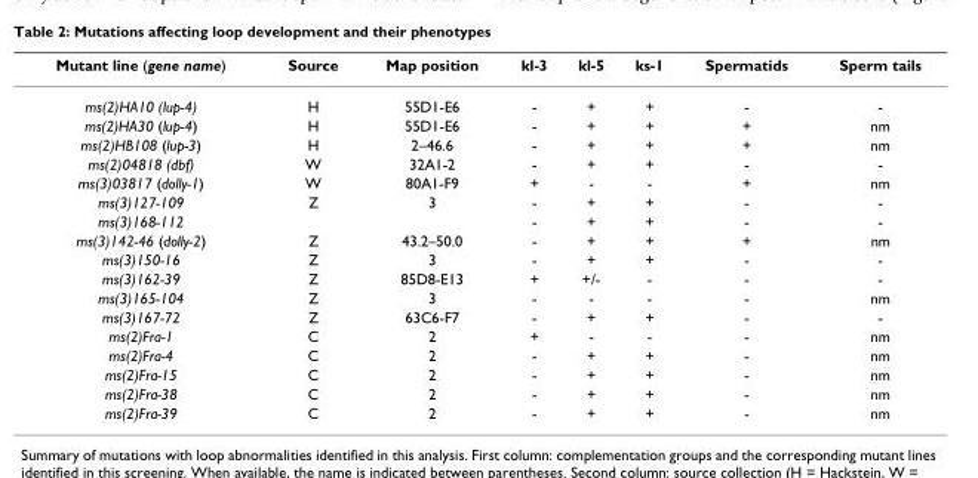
<table><thead><tr><td>Mutant line (gene name)</td><td>Source</td><td>Map position</td><td>kl-3</td><td>kl-5</td><td>ks-1</td><td>Spermatids</td><td>Sperm tails</td></tr></thead><tbody><tr><td>ms(2)HA10 (lup-4)</td><td>H</td><td>55D1-E6</td><td>-</td><td>+</td><td>+</td><td>-</td><td>-</td></tr><tr><td>ms(2)HA30 (lup-4)</td><td>H</td><td>55D1-E6</td><td>-</td><td>+</td><td>+</td><td>+</td><td>nm</td></tr><tr><td>ms(2)HB108 (lup-3)</td><td>H</td><td>2–46.6</td><td>-</td><td>+</td><td>+</td><td>+</td><td>nm</td></tr><tr><td>ms(2)04818 (dbf)</td><td>W</td><td>32A1-2</td><td>-</td><td>+</td><td>+</td><td>-</td><td>-</td></tr><tr><td>ms(3)03817 (dolly-1)</td><td>W</td><td>80A1-F9</td><td>+</td><td>-</td><td>-</td><td>+</td><td>nm</td></tr><tr><td>ms(3)127-109</td><td>Z</td><td>3</td><td>-</td><td>+</td><td>+</td><td>-</td><td>-</td></tr><tr><td>ms(3)168-112</td><td></td><td></td><td>-</td><td>+</td><td>+</td><td>-</td><td>-</td></tr><tr><td>ms(3)142-46 (dolly-2)</td><td>Z</td><td>43.2–50.0</td><td>-</td><td>+</td><td>+</td><td>+</td><td>nm</td></tr><tr><td>ms(3)150-16</td><td>Z</td><td>3</td><td>-</td><td>+</td><td>+</td><td>-</td><td>-</td></tr><tr><td>ms(3)162-39</td><td>Z</td><td>85D8-E13</td><td>+</td><td>+/-</td><td>-</td><td>-</td><td>-</td></tr><tr><td>ms(3)165-104</td><td>Z</td><td>3</td><td>-</td><td>-</td><td>-</td><td>-</td><td>nm</td></tr><tr><td>ms(3)167-72</td><td>Z</td><td>63C6-F7</td><td>-</td><td>+</td><td>+</td><td>-</td><td>-</td></tr><tr><td>ms(2)Fra-1</td><td>C</td><td>2</td><td>+</td><td>-</td><td>-</td><td>-</td><td>nm</td></tr><tr><td>ms(2)Fra-4</td><td>C</td><td>2</td><td>-</td><td>+</td><td>+</td><td>-</td><td>nm</td></tr><tr><td>ms(2)Fra-15</td><td>C</td><td>2</td><td>-</td><td>+</td><td>+</td><td>-</td><td>nm</td></tr><tr><td>ms(2)Fra-38</td><td>C</td><td>2</td><td>-</td><td>+</td><td>+</td><td>-</td><td>nm</td></tr><tr><td>ms(2)Fra-39</td><td>C</td><td>2</td><td>-</td><td>+</td><td>+</td><td>-</td><td>nm</td></tr></tbody></table>